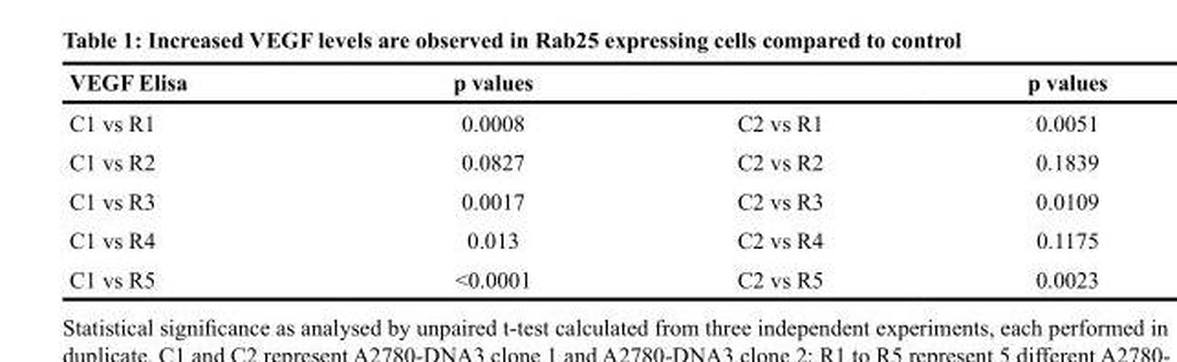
<table><thead><tr><td>VEGF Elisa</td><td>p values</td><td></td><td>p values</td></tr></thead><tbody><tr><td>C1 vs R1</td><td>0.0008</td><td>C2 vs R1</td><td>0.0051</td></tr><tr><td>C1 vs R2</td><td>0.0827</td><td>C2 vs R2</td><td>0.1839</td></tr><tr><td>C1 vs R3</td><td>0.0017</td><td>C2 vs R3</td><td>0.0109</td></tr><tr><td>C1 vs R4</td><td>0.013</td><td>C2 vs R4</td><td>0.1175</td></tr><tr><td>C1 vs R5</td><td>&lt;0.0001</td><td>C2 vs R5</td><td>0.0023</td></tr></tbody></table>